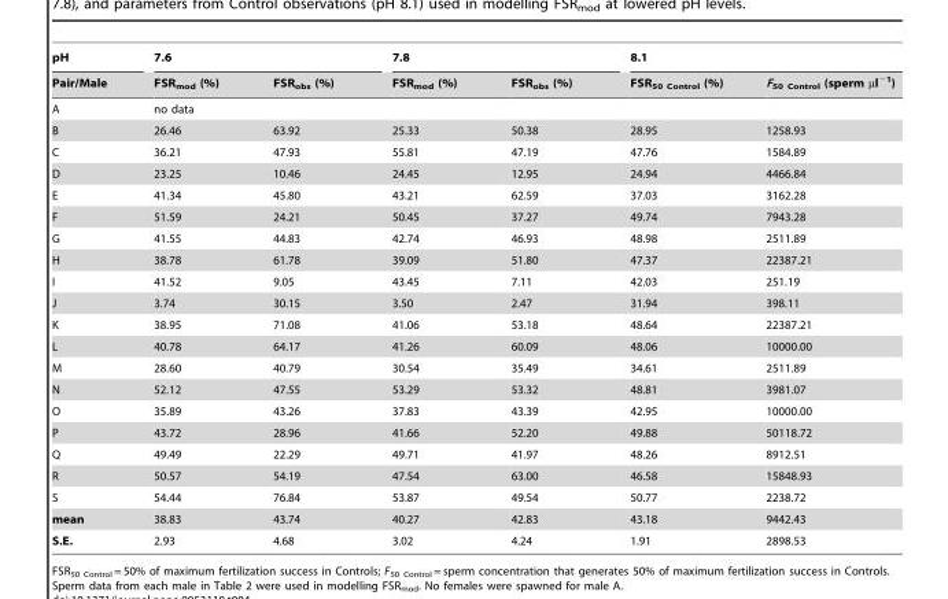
<table><thead><tr><td rowspan="2">pH Pair/Male</td><td colspan="2">7.6</td><td colspan="2">7.8</td><td colspan="2">8.1</td></tr><tr><td>FSR<sub>mod</sub> (%)</td><td>FSR<sub>obs</sub> (%)</td><td>FSR<sub>mod</sub> (%)</td><td>FSR<sub>obs</sub> (%)</td><td>FSR<sub>50 Control</sub> (%)</td><td>F<sub>50 Control</sub> (sperm µl<sup>−1</sup>)</td></tr></thead><tbody><tr><td>A</td><td>no data</td><td></td><td></td><td></td><td></td><td></td></tr><tr><td>B</td><td>26.46</td><td>63.92</td><td>25.33</td><td>50.38</td><td>28.95</td><td>1258.93</td></tr><tr><td>C</td><td>36.21</td><td>47.93</td><td>55.81</td><td>47.19</td><td>47.76</td><td>1584.89</td></tr><tr><td>D</td><td>23.25</td><td>10.46</td><td>24.45</td><td>12.95</td><td>24.94</td><td>4466.84</td></tr><tr><td>E</td><td>41.34</td><td>45.80</td><td>43.21</td><td>62.59</td><td>37.03</td><td>3162.28</td></tr><tr><td>F</td><td>51.59</td><td>24.21</td><td>50.45</td><td>37.27</td><td>49.74</td><td>7943.28</td></tr><tr><td>G</td><td>41.55</td><td>44.83</td><td>42.74</td><td>46.93</td><td>48.98</td><td>2511.89</td></tr><tr><td>H</td><td>38.78</td><td>61.78</td><td>39.09</td><td>51.80</td><td>47.37</td><td>22387.21</td></tr><tr><td>I</td><td>41.52</td><td>9.05</td><td>43.45</td><td>7.11</td><td>42.03</td><td>251.19</td></tr><tr><td>J</td><td>3.74</td><td>30.15</td><td>3.50</td><td>2.47</td><td>31.94</td><td>398.11</td></tr><tr><td>K</td><td>38.95</td><td>71.08</td><td>41.06</td><td>53.18</td><td>48.64</td><td>22387.21</td></tr><tr><td>L</td><td>40.78</td><td>64.17</td><td>41.26</td><td>60.09</td><td>48.06</td><td>10000.00</td></tr><tr><td>M</td><td>28.60</td><td>40.79</td><td>30.54</td><td>35.49</td><td>34.61</td><td>2511.89</td></tr><tr><td>N</td><td>52.12</td><td>47.55</td><td>53.29</td><td>53.32</td><td>48.81</td><td>3981.07</td></tr><tr><td>O</td><td>35.89</td><td>43.26</td><td>37.83</td><td>43.39</td><td>42.95</td><td>10000.00</td></tr><tr><td>P</td><td>43.72</td><td>28.96</td><td>41.66</td><td>52.20</td><td>49.88</td><td>50118.72</td></tr><tr><td>Q</td><td>49.49</td><td>22.29</td><td>49.71</td><td>41.97</td><td>48.26</td><td>8912.51</td></tr><tr><td>R</td><td>50.57</td><td>54.19</td><td>47.54</td><td>63.00</td><td>46.58</td><td>15848.93</td></tr><tr><td>S</td><td>54.44</td><td>76.84</td><td>53.87</td><td>49.54</td><td>50.77</td><td>2238.72</td></tr><tr><td>mean</td><td>38.83</td><td>43.74</td><td>40.27</td><td>42.83</td><td>43.18</td><td>9442.43</td></tr><tr><td>S.E.</td><td>2.93</td><td>4.68</td><td>3.02</td><td>4.24</td><td>1.91</td><td>2898.53</td></tr></tbody></table>